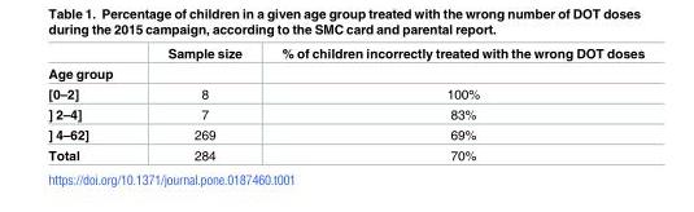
<table><thead><tr><td rowspan="2">Age group</td><td rowspan="2">Sample size</td><td rowspan="2">% of children incorrectly treated with the wrong DOT doses</td></tr><tr></tr></thead><tbody><tr><td>[0–2]</td><td>8</td><td>100%</td></tr><tr><td>] 2–4]</td><td>7</td><td>83%</td></tr><tr><td>] 4–62]</td><td>269</td><td>69%</td></tr><tr><td>Total</td><td>284</td><td>70%</td></tr></tbody></table>